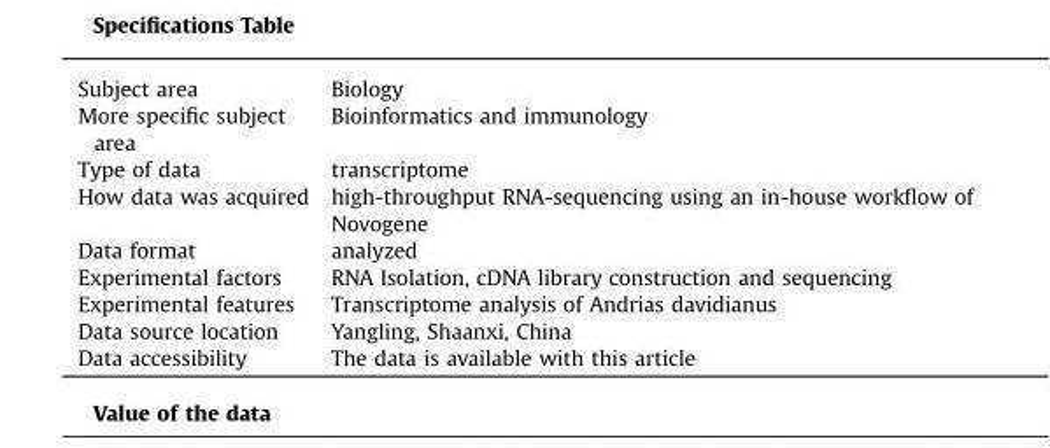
<table><tbody><tr><td>Subject area</td><td>Biology</td></tr><tr><td>More specific subject area</td><td>Bioinformatics and immunology</td></tr><tr><td>Type of data</td><td>transcriptome</td></tr><tr><td>How data was acquired</td><td>high-throughput RNA-sequencing using an in-house workflow of Novogene</td></tr><tr><td>Data format</td><td>analyzed</td></tr><tr><td>Experimental factors</td><td>RNA Isolation, cDNA library construction and sequencing</td></tr><tr><td>Experimental features</td><td>Transcriptome analysis of Andrias davidianus</td></tr><tr><td>Data source location</td><td>Yangling, Shaanxi, China</td></tr><tr><td>Data accessibility</td><td>The data is available with this article</td></tr></tbody></table>